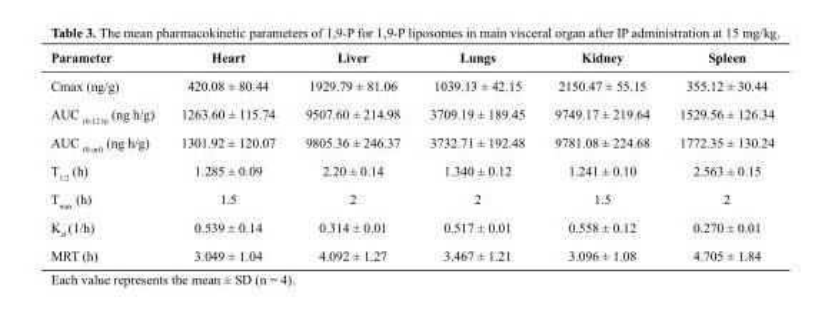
<table><thead><tr><td>Parameter</td><td>Heart</td><td>Liver</td><td>Lungs</td><td>Kidney</td><td>Spleen</td></tr></thead><tbody><tr><td>Cmax (ng/g)</td><td>420.08 ± 80.44</td><td>1929.79 ± 81.06</td><td>1039.13 ± 42.15</td><td>2150.47 ± 55.15</td><td>355.12 ± 30.44</td></tr><tr><td>AUC <sub>(0-12 h)</sub> (ng h/g)</td><td>1263.60 ± 115.74</td><td>9507.60 ± 214.98</td><td>3709.19 ± 189.45</td><td>9749.17 ± 219.64</td><td>1529.56 ± 126.34</td></tr><tr><td>AUC <sub>(0-inf)</sub> (ng h/g)</td><td>1301.92 ± 120.07</td><td>9805.36 ± 246.37</td><td>3732.71 ± 192.48</td><td>9781.08 ± 224.68</td><td>1772.35 ± 130.24</td></tr><tr><td>T<sub>1/2</sub> (h)</td><td>1.285 ± 0.09</td><td>2.20 ± 0.14</td><td>1.340 ± 0.12</td><td>1.241 ± 0.10</td><td>2.563 ± 0.15</td></tr><tr><td>T<sub>max</sub> (h)</td><td>1.5</td><td>2</td><td>2</td><td>1.5</td><td>2</td></tr><tr><td>K<sub>el</sub> (1/h)</td><td>0.539 ± 0.14</td><td>0.314 ± 0.01</td><td>0.517 ± 0.01</td><td>0.558 ± 0.12</td><td>0.270 ± 0.01</td></tr><tr><td>MRT (h)</td><td>3.049 ± 1.04</td><td>4.092 ± 1.27</td><td>3.467 ± 1.21</td><td>3.096 ± 1.08</td><td>4.705 ± 1.84</td></tr></tbody></table>